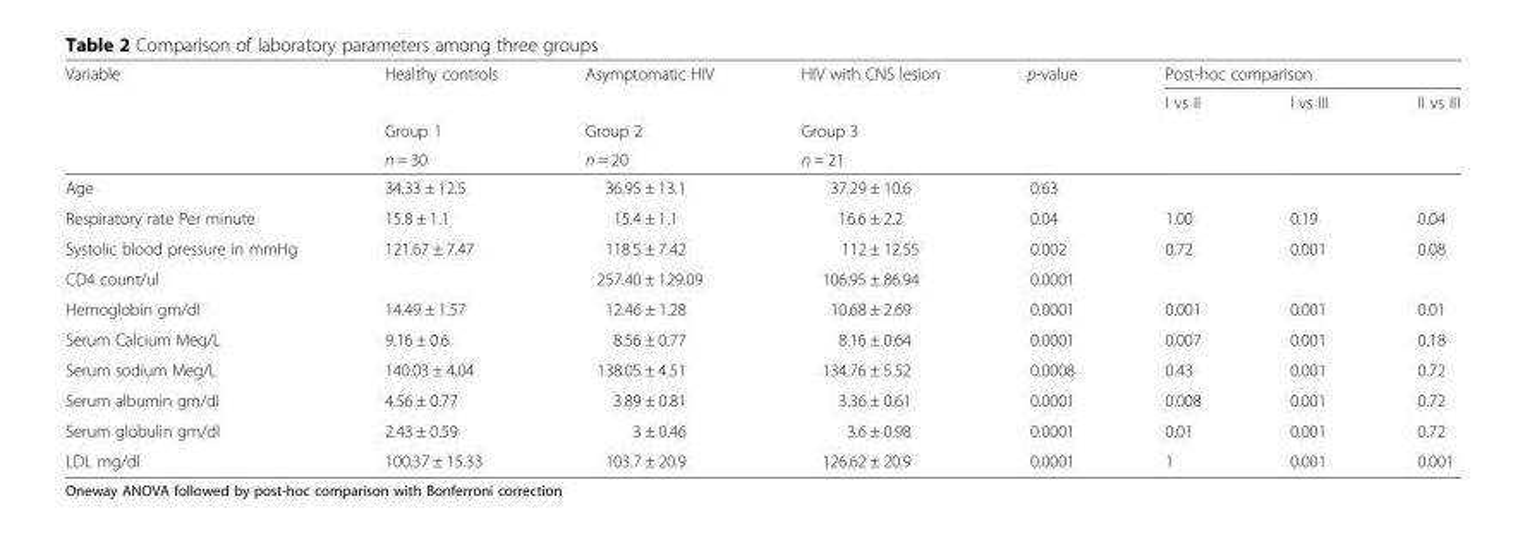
<table><thead><tr><td rowspan="4">Variable</td><td rowspan="4">Healthy controls Group 1 n = 30</td><td rowspan="4">Asymptomatic HIV Group 2 n = 20</td><td rowspan="4">HIV with CNS lesion Group 3 n = 21</td><td rowspan="4">p-value</td><td colspan="3">Post-hoc comparison</td></tr><tr><td rowspan="3">I vs II</td><td rowspan="3">I vs III</td><td rowspan="3">II vs III</td></tr><tr></tr><tr></tr></thead><tbody><tr><td>Age</td><td>34.33 ± 12.5</td><td>36.95 ± 13.1</td><td>37.29 ± 10.6</td><td>0.63</td><td></td><td></td><td></td></tr><tr><td>Respiratory rate Per minute</td><td>15.8 ± 1.1</td><td>15.4 ± 1.1</td><td>16.6 ± 2.2</td><td>0.04</td><td>1.00</td><td>0.19</td><td>0.04</td></tr><tr><td>Systolic blood pressure in mmHg</td><td>121.67 ± 7.47</td><td>118.5 ± 7.42</td><td>112 ± 12.55</td><td>0.002</td><td>0.72</td><td>0.001</td><td>0.08</td></tr><tr><td>CD4 count/ul</td><td></td><td>257.40 ± 129.09</td><td>106.95 ± 86.94</td><td>0.0001</td><td></td><td></td><td></td></tr><tr><td>Hemoglobin gm/dl</td><td>14.49 ± 1.57</td><td>12.46 ± 1.28</td><td>10.68 ± 2.69</td><td>0.0001</td><td>0.001</td><td>0.001</td><td>0.01</td></tr><tr><td>Serum Calcium Meq/L</td><td>9.16 ± 0.6</td><td>8.56 ± 0.77</td><td>8.16 ± 0.64</td><td>0.0001</td><td>0.007</td><td>0.001</td><td>0.18</td></tr><tr><td>Serum sodium Meg/L</td><td>140.03 ± 4.04</td><td>138.05 ± 4.51</td><td>134.76 ± 5.52</td><td>0.0008</td><td>0.43</td><td>0.001</td><td>0.72</td></tr><tr><td>Serum albumin gm/dl</td><td>4.56 ± 0.77</td><td>3.89 ± 0.81</td><td>3.36 ± 0.61</td><td>0.0001</td><td>0.008</td><td>0.001</td><td>0.72</td></tr><tr><td>Serum globulin gm/dl</td><td>2.43 ± 0.59</td><td>3 ± 0.46</td><td>3.6 ± 0.98</td><td>0.0001</td><td>0.01</td><td>0.001</td><td>0.72</td></tr><tr><td>LDL mg/dl</td><td>100.37 ± 15.33</td><td>103.7 ± 20.9</td><td>126.62 ± 20.9</td><td>0.0001</td><td>1</td><td>0.001</td><td>0.001</td></tr></tbody></table>